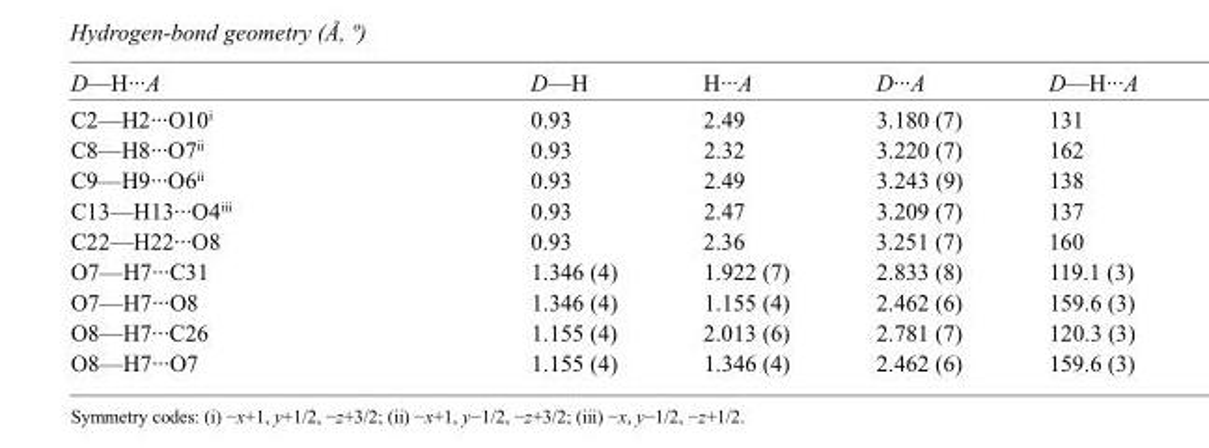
<table><tbody><tr><td>D—H···A</td><td>D—H</td><td>H···A</td><td>D···A</td><td>D—H···A</td></tr><tr><td>C2—H2···O10<sup>i</sup></td><td>0.93</td><td>2.49</td><td>3.180 (7)</td><td>131</td></tr><tr><td>C8—H8···O7<sup>ii</sup></td><td>0.93</td><td>2.32</td><td>3.220 (7)</td><td>162</td></tr><tr><td>C9—H9···O6<sup>ii</sup></td><td>0.93</td><td>2.49</td><td>3.243 (9)</td><td>138</td></tr><tr><td>C13—H13···O4<sup>iii</sup></td><td>0.93</td><td>2.47</td><td>3.209 (7)</td><td>137</td></tr><tr><td>C22—H22···O8</td><td>0.93</td><td>2.36</td><td>3.251 (7)</td><td>160</td></tr><tr><td>O7—H7···C31</td><td>1.346 (4)</td><td>1.922 (7)</td><td>2.833 (8)</td><td>119.1 (3)</td></tr><tr><td>O7—H7···O8</td><td>1.346 (4)</td><td>1.155 (4)</td><td>2.462 (6)</td><td>159.6 (3)</td></tr><tr><td>O8—H7···C26</td><td>1.155 (4)</td><td>2.013 (6)</td><td>2.781 (7)</td><td>120.3 (3)</td></tr><tr><td>O8—H7···O7</td><td>1.155 (4)</td><td>1.346 (4)</td><td>2.462 (6)</td><td>159.6 (3)</td></tr></tbody></table>